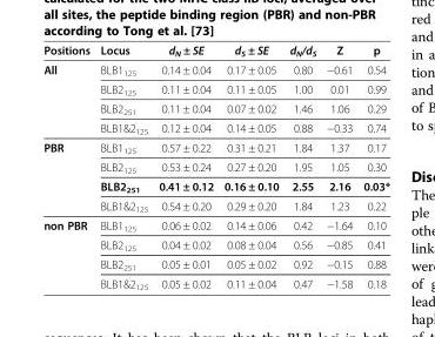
<table><thead><tr><td>Positions</td><td>Locus</td><td>d<sub>N</sub> ± SE</td><td>d<sub>S</sub> ± SE</td><td>d<sub>N</sub>/d<sub>S</sub></td><td>Z</td><td>p</td></tr></thead><tbody><tr><td rowspan="4">All</td><td>BLB1<sub>125</sub></td><td>0.14 ± 0.04</td><td>0.17 ± 0.05</td><td>0.80</td><td>−0.61</td><td>0.54</td></tr><tr><td>BLB2<sub>125</sub></td><td>0.11 ± 0.04</td><td>0.11 ± 0.05</td><td>1.00</td><td>0.01</td><td>0.99</td></tr><tr><td>BLB2<sub>251</sub></td><td>0.11 ± 0.04</td><td>0.07 ± 0.02</td><td>1.46</td><td>1.06</td><td>0.29</td></tr><tr><td>BLB1&amp;2<sub>125</sub></td><td>0.12 ± 0.04</td><td>0.14 ± 0.05</td><td>0.88</td><td>−0.33</td><td>0.74</td></tr><tr><td rowspan="4">PBR</td><td>BLB1<sub>125</sub></td><td>0.57 ± 0.22</td><td>0.31 ± 0.21</td><td>1.84</td><td>1.37</td><td>0.17</td></tr><tr><td>BLB2<sub>125</sub></td><td>0.53 ± 0.24</td><td>0.27 ± 0.20</td><td>1.95</td><td>1.05</td><td>0.30</td></tr><tr><td>BLB2<sub>251</sub></td><td>0.41 ± 0.12</td><td>0.16 ± 0.10</td><td>2.55</td><td>2.16</td><td>0.03*</td></tr><tr><td>BLB1&amp;2<sub>125</sub></td><td>0.54 ± 0.20</td><td>0.29 ± 0.20</td><td>1.84</td><td>1.23</td><td>0.22</td></tr><tr><td rowspan="4">non PBR</td><td>BLB1<sub>125</sub></td><td>0.06 ± 0.02</td><td>0.14 ± 0.06</td><td>0.42</td><td>−1.64</td><td>0.10</td></tr><tr><td>BLB2<sub>125</sub></td><td>0.04 ± 0.02</td><td>0.08 ± 0.04</td><td>0.56</td><td>−0.85</td><td>0.41</td></tr><tr><td>BLB2<sub>251</sub></td><td>0.05 ± 0.01</td><td>0.05 ± 0.02</td><td>0.92</td><td>−0.15</td><td>0.88</td></tr><tr><td>BLB1&amp;2<sub>125</sub></td><td>0.05 ± 0.02</td><td>0.11 ± 0.04</td><td>0.47</td><td>−1.58</td><td>0.18</td></tr></tbody></table>